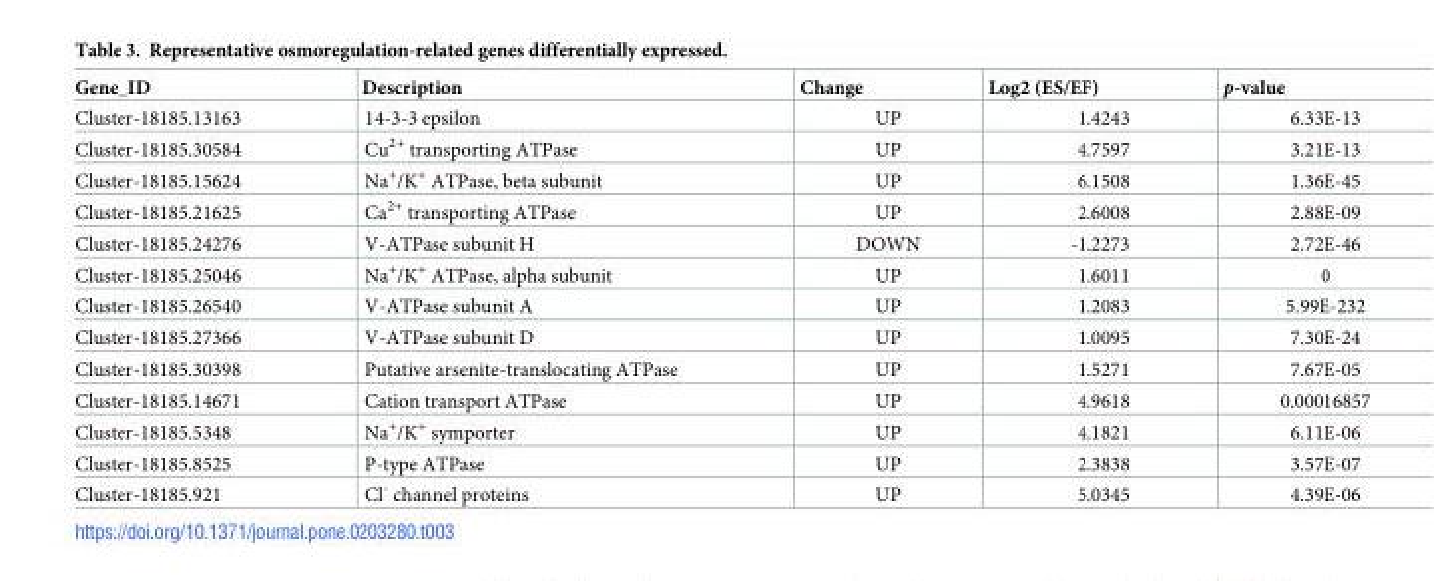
<table><thead><tr><td>Gene_ID</td><td>Description</td><td>Change</td><td>Log2 (ES/EF)</td><td>p-value</td></tr></thead><tbody><tr><td>Cluster-18185.13163</td><td>14-3-3 epsilon</td><td>UP</td><td>1.4243</td><td>6.33E-13</td></tr><tr><td>Cluster-18185.30584</td><td>Cu<sup>2+</sup> transporting ATPase</td><td>UP</td><td>4.7597</td><td>3.21E-13</td></tr><tr><td>Cluster-18185.15624</td><td>Na<sup>+</sup>/K<sup>+</sup> ATPase, beta subunit</td><td>UP</td><td>6.1508</td><td>1.36E-45</td></tr><tr><td>Cluster-18185.21625</td><td>Ca<sup>2+</sup> transporting ATPase</td><td>UP</td><td>2.6008</td><td>2.88E-09</td></tr><tr><td>Cluster-18185.24276</td><td>V-ATPase subunit H</td><td>DOWN</td><td>-1.2273</td><td>2.72E-46</td></tr><tr><td>Cluster-18185.25046</td><td>Na<sup>+</sup>/K<sup>+</sup> ATPase, alpha subunit</td><td>UP</td><td>1.6011</td><td>0</td></tr><tr><td>Cluster-18185.26540</td><td>V-ATPase subunit A</td><td>UP</td><td>1.2083</td><td>5.99E-232</td></tr><tr><td>Cluster-18185.27366</td><td>V-ATPase subunit D</td><td>UP</td><td>1.0095</td><td>7.30E-24</td></tr><tr><td>Cluster-18185.30398</td><td>Putative arsenite-translocating ATPase</td><td>UP</td><td>1.5271</td><td>7.67E-05</td></tr><tr><td>Cluster-18185.14671</td><td>Cation transport ATPase</td><td>UP</td><td>4.9618</td><td>0.00016857</td></tr><tr><td>Cluster-18185.5348</td><td>Na<sup>+</sup>/K<sup>+</sup> symporter</td><td>UP</td><td>4.1821</td><td>6.11E-06</td></tr><tr><td>Cluster-18185.8525</td><td>P-type ATPase</td><td>UP</td><td>2.3838</td><td>3.57E-07</td></tr><tr><td>Cluster-18185.921</td><td>Cl<sup>-</sup> channel proteins</td><td>UP</td><td>5.0345</td><td>4.39E-06</td></tr></tbody></table>